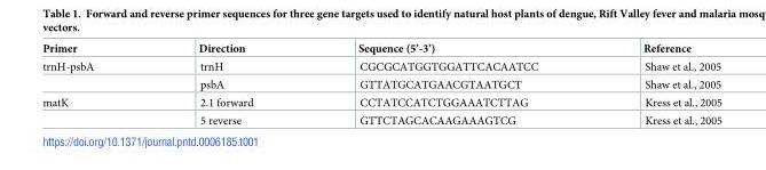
<table><thead><tr><td>Primer</td><td>Direction</td><td>Sequence (5’-3’)</td><td>Reference</td></tr></thead><tbody><tr><td rowspan="2">trnH-psbA</td><td>trnH</td><td>CGCGCATGGTGGATTCACAATCC</td><td>Shaw et al., 2005</td></tr><tr><td>psbA</td><td>GTTATGCATGAACGTAATGCT</td><td>Shaw et al., 2005</td></tr><tr><td rowspan="2">matK</td><td>2.1 forward</td><td>CCTATCCATCTGGAAATCTTAG</td><td>Kress et al., 2005</td></tr><tr><td>5 reverse</td><td>GTTCTAGCACAAGAAAGTCG</td><td>Kress et al., 2005</td></tr></tbody></table>